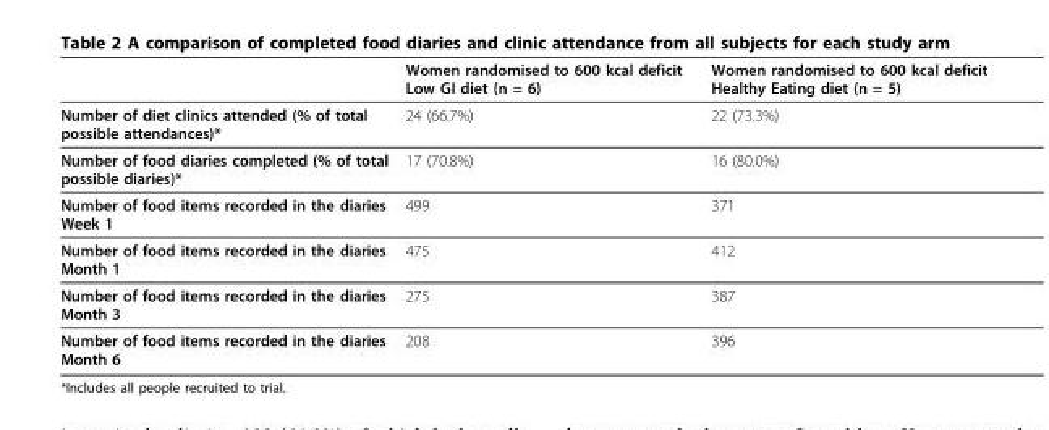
<table><thead><tr><td></td><td>Women randomised to 600 kcal deficit Low GI diet (n = 6)</td><td>Women randomised to 600 kcal deficit Healthy Eating diet (n = 5)</td></tr></thead><tbody><tr><td>Number of diet clinics attended (% of total possible attendances)*</td><td>24 (66.7%)</td><td>22 (73.3%)</td></tr><tr><td>Number of food diaries completed (% of total possible diaries)*</td><td>17 (70.8%)</td><td>16 (80.0%)</td></tr><tr><td>Number of food items recorded in the diaries Week 1</td><td>499</td><td>371</td></tr><tr><td>Number of food items recorded in the diaries Month 1</td><td>475</td><td>412</td></tr><tr><td>Number of food items recorded in the diaries Month 3</td><td>275</td><td>387</td></tr><tr><td>Number of food items recorded in the diaries Month 6</td><td>208</td><td>396</td></tr></tbody></table>